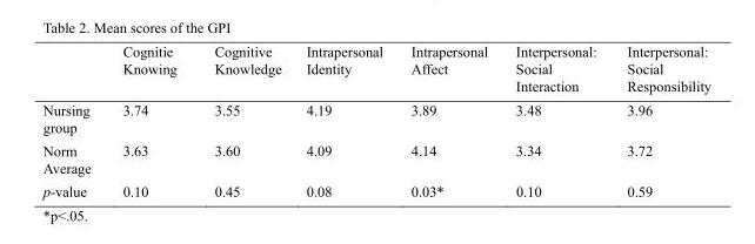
<table><thead><tr><td></td><td>Cognitie Knowing</td><td>Cognitive Knowledge</td><td>Intrapersonal Identity</td><td>Intrapersonal Affect</td><td>Interpersonal: Social Interaction</td><td>Interpersonal: Social Responsibility</td></tr></thead><tbody><tr><td>Nursing group</td><td>3.74</td><td>3.55</td><td>4.19</td><td>3.89</td><td>3.48</td><td>3.96</td></tr><tr><td>Norm Average</td><td>3.63</td><td>3.60</td><td>4.09</td><td>4.14</td><td>3.34</td><td>3.72</td></tr><tr><td>p-value</td><td>0.10</td><td>0.45</td><td>0.08</td><td>0.03*</td><td>0.10</td><td>0.59</td></tr></tbody></table>